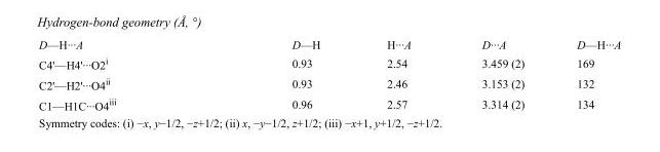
<table><tbody><tr><td>D—H···A</td><td>D—H</td><td>H···A</td><td>D···A</td><td>D—H···A</td></tr><tr><td>C4&#x27;—H4&#x27;···O2<sup>i</sup></td><td>0.93</td><td>2.54</td><td>3.459 (2)</td><td>169</td></tr><tr><td>C2&#x27;—H2&#x27;···O4<sup>ii</sup></td><td>0.93</td><td>2.46</td><td>3.153 (2)</td><td>132</td></tr><tr><td>C1—H1C···O4<sup>iii</sup></td><td>0.96</td><td>2.57</td><td>3.314 (2)</td><td>134</td></tr></tbody></table>